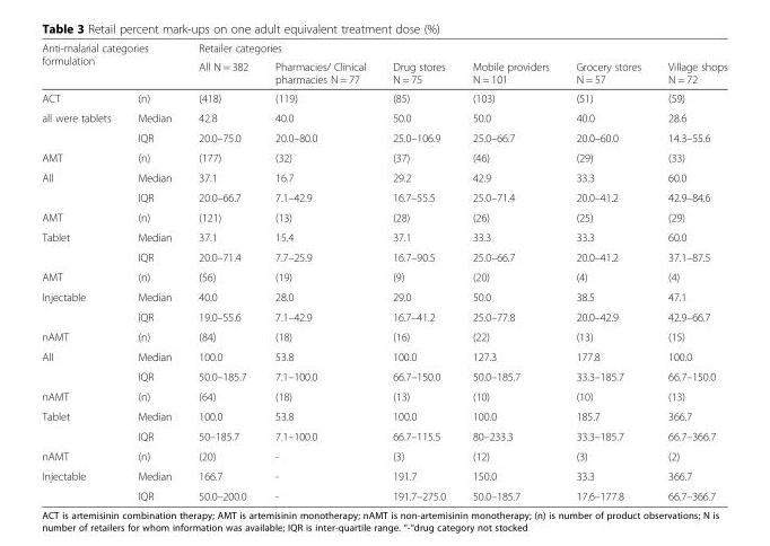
<table><thead><tr><td rowspan="2" colspan="2">Anti-malarial categories formulation</td><td colspan="6">Retailer categories</td></tr><tr><td rowspan="2">All N = 382 (418)</td><td rowspan="2">Pharmacies/ Clinical pharmacies N = 77 (119)</td><td rowspan="2">Drug stores N = 75 (85)</td><td rowspan="2">Mobile providers N = 101 (103)</td><td rowspan="2">Grocery stores N = 57 (51)</td><td rowspan="2">Village shops N = 72 (59)</td></tr><tr><td>ACT</td><td>(n)</td></tr></thead><tbody><tr><td rowspan="2">all were tablets</td><td>Median</td><td>42.8</td><td>40.0</td><td>50.0</td><td>50.0</td><td>40.0</td><td>28.6</td></tr><tr><td>IQR</td><td>20.0–75.0</td><td>20.0–80.0</td><td>25.0–106.9</td><td>25.0–66.7</td><td>20.0–60.0</td><td>14.3–55.6</td></tr><tr><td>AMT</td><td>(n)</td><td>(177)</td><td>(32)</td><td>(37)</td><td>(46)</td><td>(29)</td><td>(33)</td></tr><tr><td rowspan="2">All</td><td>Median</td><td>37.1</td><td>16.7</td><td>29.2</td><td>42.9</td><td>33.3</td><td>60.0</td></tr><tr><td>IQR</td><td>20.0–66.7</td><td>7.1–42.9</td><td>16.7–55.5</td><td>25.0–71.4</td><td>20.0–41.2</td><td>42.9–84.6</td></tr><tr><td>AMT</td><td>(n)</td><td>(121)</td><td>(13)</td><td>(28)</td><td>(26)</td><td>(25)</td><td>(29)</td></tr><tr><td rowspan="2">Tablet</td><td>Median</td><td>37.1</td><td>15.4</td><td>37.1</td><td>33.3</td><td>33.3</td><td>60.0</td></tr><tr><td>IQR</td><td>20.0–71.4</td><td>7.7–25.9</td><td>16.7–90.5</td><td>25.0–66.7</td><td>20.0–41.2</td><td>37.1–87.5</td></tr><tr><td>AMT</td><td>(n)</td><td>(56)</td><td>(19)</td><td>(9)</td><td>(20)</td><td>(4)</td><td>(4)</td></tr><tr><td rowspan="2">Injectable</td><td>Median</td><td>40.0</td><td>28.0</td><td>29.0</td><td>50.0</td><td>38.5</td><td>47.1</td></tr><tr><td>IQR</td><td>19.0–55.6</td><td>7.1–42.9</td><td>16.7–41.2</td><td>25.0–77.8</td><td>20.0–42.9</td><td>42.9–66.7</td></tr><tr><td>nAMT</td><td>(n)</td><td>(84)</td><td>(18)</td><td>(16)</td><td>(22)</td><td>(13)</td><td>(15)</td></tr><tr><td rowspan="2">All</td><td>Median</td><td>100.0</td><td>53.8</td><td>100.0</td><td>127.3</td><td>177.8</td><td>100.0</td></tr><tr><td>IQR</td><td>50.0–185.7</td><td>7.1–100.0</td><td>66.7–150.0</td><td>50.0–185.7</td><td>33.3–185.7</td><td>66.7–150.0</td></tr><tr><td>nAMT</td><td>(n)</td><td>(64)</td><td>(18)</td><td>(13)</td><td>(10)</td><td>(10)</td><td>(13)</td></tr><tr><td rowspan="2">Tablet</td><td>Median</td><td>100.0</td><td>53.8</td><td>100.0</td><td>100.0</td><td>185.7</td><td>366.7</td></tr><tr><td>IQR</td><td>50–185.7</td><td>7.1–100.0</td><td>66.7–115.5</td><td>80–233.3</td><td>33.3–185.7</td><td>66.7–366.7</td></tr><tr><td>nAMT</td><td>(n)</td><td>(20)</td><td>-</td><td>(3)</td><td>(12)</td><td>(3)</td><td>(2)</td></tr><tr><td rowspan="2">Injectable</td><td>Median</td><td>166.7</td><td>-</td><td>191.7</td><td>150.0</td><td>33.3</td><td>366.7</td></tr><tr><td>IQR</td><td>50.0–200.0</td><td>-</td><td>191.7–275.0</td><td>50.0–185.7</td><td>17.6–177.8</td><td>66.7–366.7</td></tr></tbody></table>